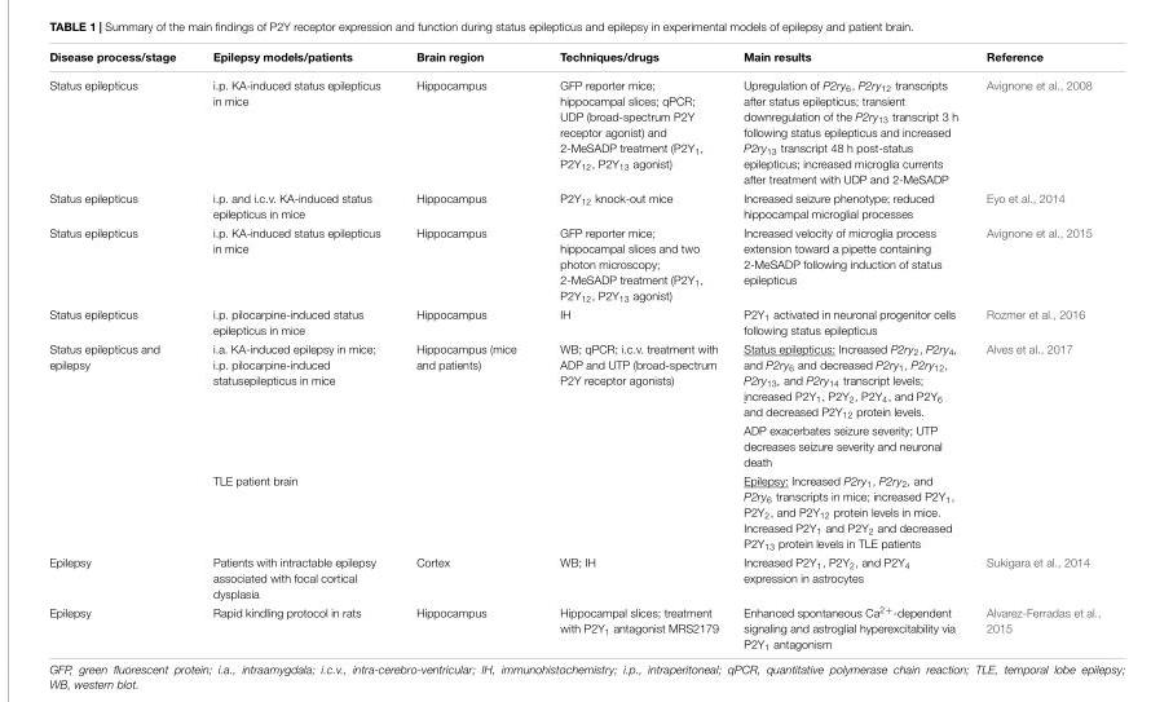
<table><thead><tr><td>Disease process/stage</td><td>Epilepsy models/patients</td><td>Brain region</td><td>Techniques/drugs</td><td>Main results</td><td>Reference</td></tr></thead><tbody><tr><td>Status epilepticus</td><td>i.p. KA-induced status epilepticus in mice</td><td>Hippocampus</td><td>GFP reporter mice; hippocampal slices; qPCR; UDP (broad-spectrum P2Y receptor agonist) and 2-MeSADP treatment (P2Y<sub>1</sub>, P2Y<sub>12</sub>, P2Y<sub>13</sub> agonist)</td><td>Upregulation of P2ry<sub>6</sub>, P2ry<sub>12</sub> transcripts after status epilepticus; transient downregulation of the P2ry<sub>13</sub> transcript 3 h following status epilepticus and increased P2ry<sub>13</sub> transcript 48 h post-status epilepticus; increased microglia currents after treatment with UDP and 2-MeSADP</td><td>Avignone et al., 2008</td></tr><tr><td>Status epilepticus</td><td>i.p. and i.c.v. KA-induced status epilepticus in mice</td><td>Hippocampus</td><td>P2Y<sub>12</sub> knock-out mice</td><td>Increased seizure phenotype; reduced hippocampal microglial processes</td><td>Eyo et al., 2014</td></tr><tr><td>Status epilepticus</td><td>i.p. KA-induced status epilepticus in mice</td><td>Hippocampus</td><td>GFP reporter mice; hippocampal slices and two photon microscopy; 2-MeSADP treatment (P2Y<sub>1</sub>, P2Y<sub>12</sub>, P2Y<sub>13</sub> agonist)</td><td>Increased velocity of microglia process extension toward a pipette containing 2-MeSADP following induction of status epilepticus</td><td>Avignone et al., 2015</td></tr><tr><td>Status epilepticus</td><td>i.p. pilocarpine-induced status epilepticus in mice</td><td>Hippocampus</td><td>IH</td><td>P2Y<sub>1</sub> activated in neuronal progenitor cells following status epilepticus</td><td>Rozmer et al., 2016</td></tr><tr><td rowspan="3">Status epilepticus and epilepsy</td><td>i.a. KA-induced epilepsy in mice; i.p. pilocarpine-induced statusepilepticus in mice</td><td>Hippocampus (mice and patients)</td><td>WB; qPCR; i.c.v. treatment with ADP and UTP (broad-spectrum P2Y receptor agonists)</td><td>Status epilepticus: Increased P2ry<sub>2</sub>, P2ry<sub>4</sub>, and P2ry<sub>6</sub> and decreased P2ry<sub>1</sub>, P2ry<sub>12</sub>, P2ry<sub>13</sub>, and P2ry<sub>14</sub> transcript levels; increased P2Y<sub>1</sub>, P2Y<sub>2</sub>, P2Y<sub>4</sub>, and P2Y<sub>6</sub> and decreased P2Y<sub>12</sub> protein levels.</td><td>Alves et al., 2017</td></tr><tr><td></td><td></td><td></td><td>ADP exacerbates seizure severity; UTP decreases seizure severity and neuronal death</td><td></td></tr><tr><td>TLE patient brain</td><td></td><td></td><td>Epilepsy: Increased P2ry<sub>1</sub>, P2ry<sub>2</sub>, and P2ry<sub>6</sub> transcripts in mice; increased P2Y<sub>1</sub>, P2Y<sub>2</sub>, and P2Y<sub>12</sub> protein levels in mice. Increased P2Y<sub>1</sub> and P2Y<sub>2</sub> and decreased P2Y<sub>13</sub> protein levels in TLE patients</td><td></td></tr><tr><td>Epilepsy</td><td>Patients with intractable epilepsy associated with focal cortical dysplasia</td><td>Cortex</td><td>WB; IH</td><td>Increased P2Y<sub>1</sub>, P2Y<sub>2</sub>, and P2Y<sub>4</sub> expression in astrocytes</td><td>Sukigara et al., 2014</td></tr><tr><td>Epilepsy</td><td>Rapid kindling protocol in rats</td><td>Hippocampus</td><td>Hippocampal slices; treatment with P2Y<sub>1</sub> antagonist MRS2179</td><td>Enhanced spontaneous Ca<sup>2+</sup>-dependent signaling and astroglial hyperexcitability via P2Y<sub>1</sub> antagonism</td><td>Alvarez-Ferradas et al., 2015</td></tr></tbody></table>